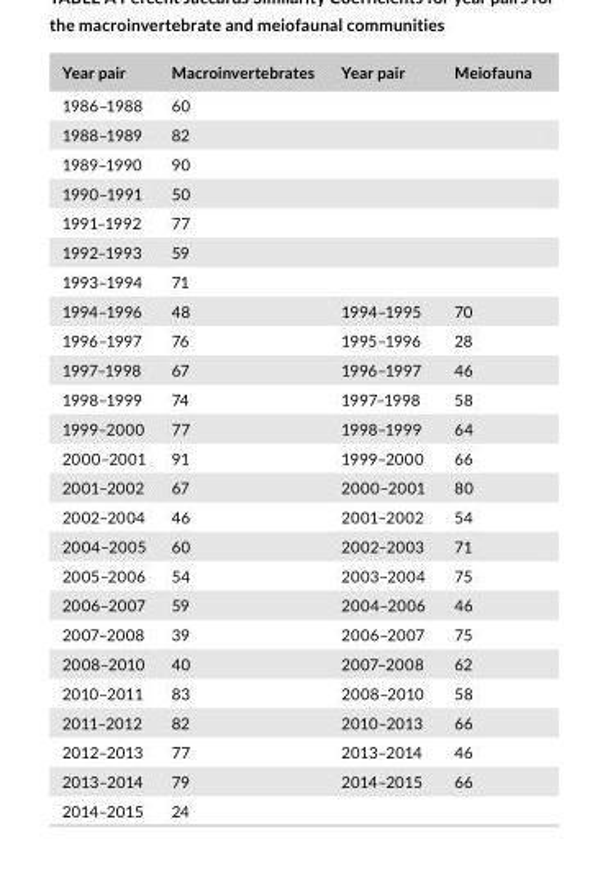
<table><thead><tr><td>Year pair</td><td>Macroinvertebrates</td><td>Year pair</td><td>Meiofauna</td></tr></thead><tbody><tr><td>1986–1988</td><td>60</td><td></td><td></td></tr><tr><td>1988–1989</td><td>82</td><td></td><td></td></tr><tr><td>1989–1990</td><td>90</td><td></td><td></td></tr><tr><td>1990–1991</td><td>50</td><td></td><td></td></tr><tr><td>1991–1992</td><td>77</td><td></td><td></td></tr><tr><td>1992–1993</td><td>59</td><td></td><td></td></tr><tr><td>1993–1994</td><td>71</td><td></td><td></td></tr><tr><td>1994–1996</td><td>48</td><td>1994–1995</td><td>70</td></tr><tr><td>1996–1997</td><td>76</td><td>1995–1996</td><td>28</td></tr><tr><td>1997–1998</td><td>67</td><td>1996–1997</td><td>46</td></tr><tr><td>1998–1999</td><td>74</td><td>1997–1998</td><td>58</td></tr><tr><td>1999–2000</td><td>77</td><td>1998–1999</td><td>64</td></tr><tr><td>2000–2001</td><td>91</td><td>1999–2000</td><td>66</td></tr><tr><td>2001–2002</td><td>67</td><td>2000–2001</td><td>80</td></tr><tr><td>2002–2004</td><td>46</td><td>2001–2002</td><td>54</td></tr><tr><td>2004–2005</td><td>60</td><td>2002–2003</td><td>71</td></tr><tr><td>2005–2006</td><td>54</td><td>2003–2004</td><td>75</td></tr><tr><td>2006–2007</td><td>59</td><td>2004–2006</td><td>46</td></tr><tr><td>2007–2008</td><td>39</td><td>2006–2007</td><td>75</td></tr><tr><td>2008–2010</td><td>40</td><td>2007–2008</td><td>62</td></tr><tr><td>2010–2011</td><td>83</td><td>2008–2010</td><td>58</td></tr><tr><td>2011–2012</td><td>82</td><td>2010–2013</td><td>66</td></tr><tr><td>2012–2013</td><td>77</td><td>2013–2014</td><td>46</td></tr><tr><td>2013–2014</td><td>79</td><td>2014–2015</td><td>66</td></tr><tr><td>2014–2015</td><td>24</td><td></td><td></td></tr></tbody></table>